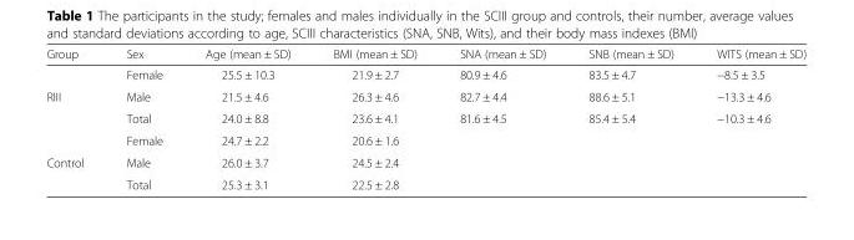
<table><thead><tr><td>Group</td><td>Sex</td><td>Age (mean ± SD)</td><td>BMI (mean ± SD)</td><td>SNA (mean ± SD)</td><td>SNB (mean ± SD)</td><td>WITS (mean ± SD)</td></tr></thead><tbody><tr><td></td><td>Female</td><td>25.5 ± 10.3</td><td>21.9 ± 2.7</td><td>80.9 ± 4.6</td><td>83.5 ± 4.7</td><td>−8.5 ± 3.5</td></tr><tr><td rowspan="3">RIII</td><td>Male</td><td>21.5 ± 4.6</td><td>26.3 ± 4.6</td><td>82.7 ± 4.4</td><td>88.6 ± 5.1</td><td>−13.3 ± 4.6</td></tr><tr><td>Total</td><td>24.0 ± 8.8</td><td>23.6 ± 4.1</td><td>81.6 ± 4.5</td><td>85.4 ± 5.4</td><td>−10.3 ± 4.6</td></tr><tr><td>Female</td><td>24.7 ± 2.2</td><td>20.6 ± 1.6</td><td></td><td></td><td></td></tr><tr><td rowspan="2">Control</td><td>Male</td><td>26.0 ± 3.7</td><td>24.5 ± 2.4</td><td></td><td></td><td></td></tr><tr><td>Total</td><td>25.3 ± 3.1</td><td>22.5 ± 2.8</td><td></td><td></td><td></td></tr></tbody></table>